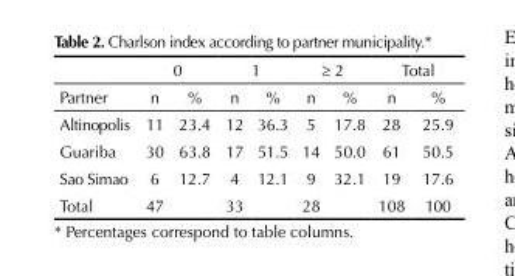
<table><thead><tr><td rowspan="2">Partner</td><td colspan="2">0</td><td colspan="2">1</td><td colspan="2">≥ 2</td><td colspan="2">Total</td></tr><tr><td>n</td><td>%</td><td>n</td><td>%</td><td>n</td><td>%</td><td>n</td><td>%</td></tr></thead><tbody><tr><td>Altinopolis</td><td>11</td><td>23.4</td><td>12</td><td>36.3</td><td>5</td><td>17.8</td><td>28</td><td>25.9</td></tr><tr><td>Guariba</td><td>30</td><td>63.8</td><td>17</td><td>51.5</td><td>14</td><td>50.0</td><td>61</td><td>50.5</td></tr><tr><td>Sao Simao</td><td>6</td><td>12.7</td><td>4</td><td>12.1</td><td>9</td><td>32.1</td><td>19</td><td>17.6</td></tr><tr><td>Total</td><td>47</td><td></td><td>33</td><td></td><td>28</td><td></td><td>108</td><td>100</td></tr></tbody></table>